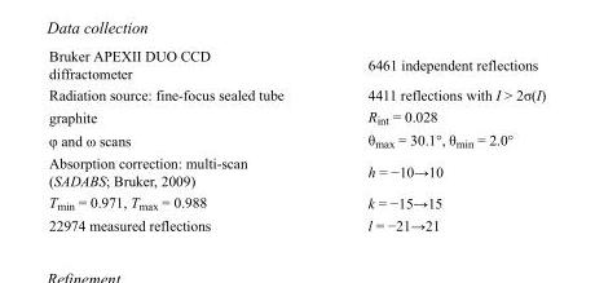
<table><tbody><tr><td>Bruker APEXII DUO CCD diffractometer</td><td>6461 independent reflections</td></tr><tr><td>Radiation source: fine-focus sealed tube</td><td>4411 reflections with I &gt; 2σ(I)</td></tr><tr><td>graphite</td><td>R<sub>int</sub> = 0.028</td></tr><tr><td>φ and ω scans</td><td>θ<sub>max</sub> = 30.1°, θ<sub>min</sub> = 2.0°</td></tr><tr><td>Absorption correction: multi-scan (SADABS; Bruker, 2009)</td><td>h = −10→10</td></tr><tr><td>T<sub>min</sub> = 0.971, T<sub>max</sub> = 0.988</td><td>k = −15→15</td></tr><tr><td>22974 measured reflections</td><td>l = −21→21</td></tr></tbody></table>